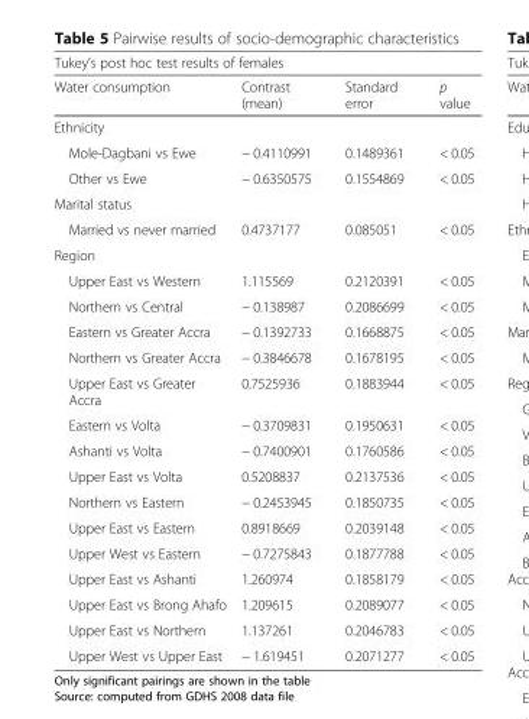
<table><thead><tr><td colspan="4">Tukey’s post hoc test results of females</td></tr><tr><td>Water consumption</td><td>Contrast (mean)</td><td>Standard error</td><td>p value</td></tr></thead><tbody><tr><td colspan="4">Ethnicity</td></tr><tr><td>Mole-Dagbani vs Ewe</td><td>− 0.4110991</td><td>0.1489361</td><td>&lt; 0.05</td></tr><tr><td>Other vs Ewe</td><td>− 0.6350575</td><td>0.1554869</td><td>&lt; 0.05</td></tr><tr><td colspan="4">Marital status</td></tr><tr><td>Married vs never married</td><td>0.4737177</td><td>0.085051</td><td>&lt; 0.05</td></tr><tr><td colspan="4">Region</td></tr><tr><td>Upper East vs Western</td><td>1.115569</td><td>0.2120391</td><td>&lt; 0.05</td></tr><tr><td>Northern vs Central</td><td>− 0.138987</td><td>0.2086699</td><td>&lt; 0.05</td></tr><tr><td>Eastern vs Greater Accra</td><td>− 0.1392733</td><td>0.1668875</td><td>&lt; 0.05</td></tr><tr><td>Northern vs Greater Accra</td><td>− 0.3846678</td><td>0.1678195</td><td>&lt; 0.05</td></tr><tr><td>Upper East vs Greater Accra</td><td>0.7525936</td><td>0.1883944</td><td>&lt; 0.05</td></tr><tr><td>Eastern vs Volta</td><td>− 0.3709831</td><td>0.1950631</td><td>&lt; 0.05</td></tr><tr><td>Ashanti vs Volta</td><td>− 0.7400901</td><td>0.1760586</td><td>&lt; 0.05</td></tr><tr><td>Upper East vs Volta</td><td>0.5208837</td><td>0.2137536</td><td>&lt; 0.05</td></tr><tr><td>Northern vs Eastern</td><td>− 0.2453945</td><td>0.1850735</td><td>&lt; 0.05</td></tr><tr><td>Upper East vs Eastern</td><td>0.8918669</td><td>0.2039148</td><td>&lt; 0.05</td></tr><tr><td>Upper West vs Eastern</td><td>− 0.7275843</td><td>0.1877788</td><td>&lt; 0.05</td></tr><tr><td>Upper East vs Ashanti</td><td>1.260974</td><td>0.1858179</td><td>&lt; 0.05</td></tr><tr><td>Upper East vs Brong Ahafo</td><td>1.209615</td><td>0.2089077</td><td>&lt; 0.05</td></tr><tr><td>Upper East vs Northern</td><td>1.137261</td><td>0.2046783</td><td>&lt; 0.05</td></tr><tr><td>Upper West vs Upper East</td><td>− 1.619451</td><td>0.2071277</td><td>&lt; 0.05</td></tr></tbody></table>